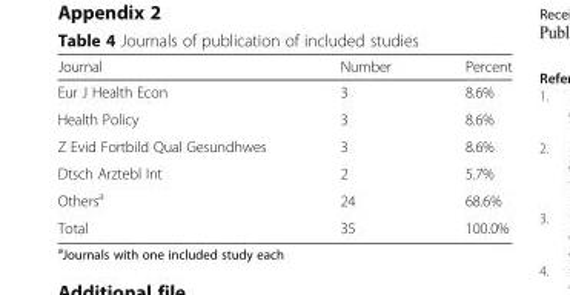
<table><thead><tr><td>Journal</td><td>Number</td><td>Percent</td></tr></thead><tbody><tr><td>Eur J Health Econ</td><td>3</td><td>8.6%</td></tr><tr><td>Health Policy</td><td>3</td><td>8.6%</td></tr><tr><td>Z Evid Fortbild Qual Gesundhwes</td><td>3</td><td>8.6%</td></tr><tr><td>Dtsch Arztebl Int</td><td>2</td><td>5.7%</td></tr><tr><td>Others<sup>a</sup></td><td>24</td><td>68.6%</td></tr><tr><td>Total</td><td>35</td><td>100.0%</td></tr></tbody></table>